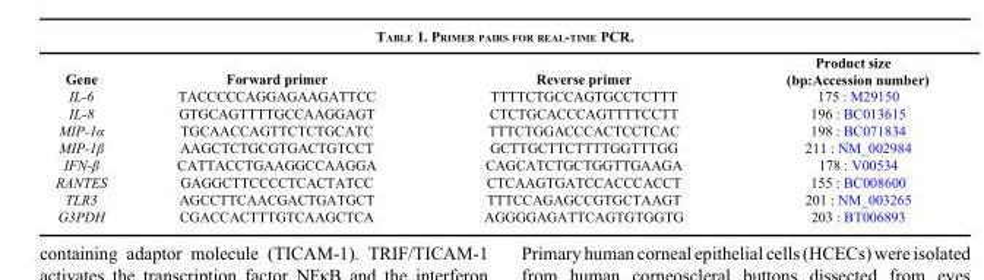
<table><thead><tr><td>Gene</td><td>Forward primer</td><td>Reverse primer</td><td>Product size (bp:Accession number)</td></tr></thead><tbody><tr><td>IL-6</td><td>TACCCCCAGGAGAAGATTCC</td><td>TTTTCTGCCAGTGCCTCTTT</td><td>175 : M29150</td></tr><tr><td>IL-8</td><td>GTGCAGTTTTGCCAAGGAGT</td><td>CTCTGCACCCAGTTTTCCTT</td><td>196 : BC013615</td></tr><tr><td>MIP-1α</td><td>TGCAACCAGTTCTCTGCATC</td><td>TTTCTGGACCCACTCCTCAC</td><td>198 : BC071834</td></tr><tr><td>MIP-1β</td><td>AAGCTCTGCGTGACTGTCCT</td><td>GCTTGCTTCTTTTGGTTTGG</td><td>211 : NM_002984</td></tr><tr><td>IFN-β</td><td>CATTACCTGAAGGCCAAGGA</td><td>CAGCATCTGCTGGTTGAAGA</td><td>178 : V00534</td></tr><tr><td>RANTES</td><td>GAGGCTTCCCCTCACTATCC</td><td>CTCAAGTGATCCACCCACCT</td><td>155 : BC008600</td></tr><tr><td>TLR3</td><td>AGCCTTCAACGACTGATGCT</td><td>TTTCCAGAGCCGTGCTAAGT</td><td>201 : NM_003265</td></tr><tr><td>G3PDH</td><td>CGACCACTTTGTCAAGCTCA</td><td>AGGGGAGATTCAGTGTGGTG</td><td>203 : BT006893</td></tr></tbody></table>